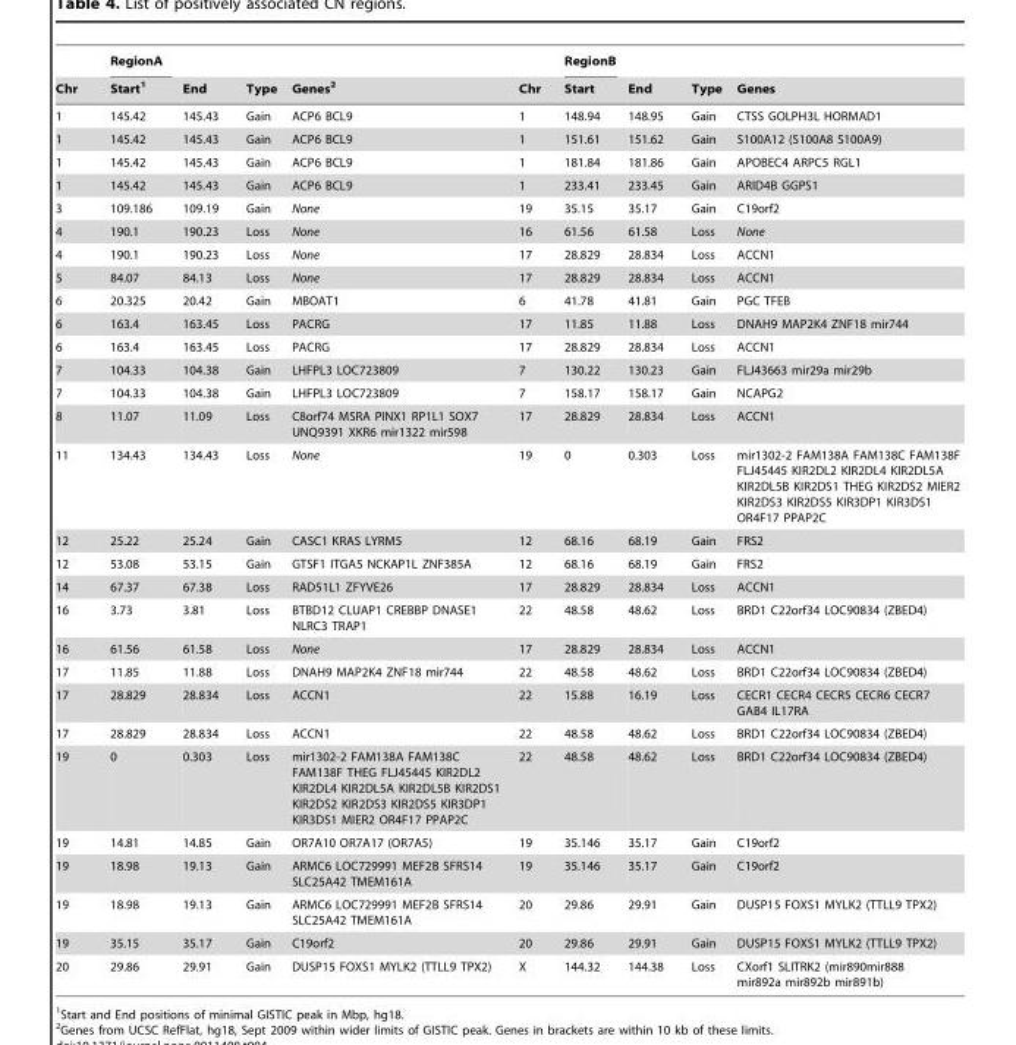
<table><thead><tr><td rowspan="2">Chr</td><td rowspan="2">RegionA Start<sup>1</sup></td><td rowspan="2">End</td><td rowspan="2">Type</td><td rowspan="2">Genes<sup>2</sup></td><td rowspan="2">Chr</td><td rowspan="2">RegionB Start</td><td rowspan="2">End</td><td rowspan="2">Type</td><td rowspan="2">Genes</td></tr><tr></tr></thead><tbody><tr><td>1</td><td>145.42</td><td>145.43</td><td>Gain</td><td>ACP6 BCL9</td><td>1</td><td>148.94</td><td>148.95</td><td>Gain</td><td>CTSS GOLPH3L HORMAD1</td></tr><tr><td>1</td><td>145.42</td><td>145.43</td><td>Gain</td><td>ACP6 BCL9</td><td>1</td><td>151.61</td><td>151.62</td><td>Gain</td><td>S100A12 (S100A8 S100A9)</td></tr><tr><td>1</td><td>145.42</td><td>145.43</td><td>Gain</td><td>ACP6 BCL9</td><td>1</td><td>181.84</td><td>181.86</td><td>Gain</td><td>APOBEC4 ARPC5 RGL1</td></tr><tr><td>1</td><td>145.42</td><td>145.43</td><td>Gain</td><td>ACP6 BCL9</td><td>1</td><td>233.41</td><td>233.45</td><td>Gain</td><td>ARID4B GGPS1</td></tr><tr><td>3</td><td>109.186</td><td>109.19</td><td>Gain</td><td>None</td><td>19</td><td>35.15</td><td>35.17</td><td>Gain</td><td>C19orf2</td></tr><tr><td>4</td><td>190.1</td><td>190.23</td><td>Loss</td><td>None</td><td>16</td><td>61.56</td><td>61.58</td><td>Loss</td><td>None</td></tr><tr><td>4</td><td>190.1</td><td>190.23</td><td>Loss</td><td>None</td><td>17</td><td>28.829</td><td>28.834</td><td>Loss</td><td>ACCN1</td></tr><tr><td>5</td><td>84.07</td><td>84.13</td><td>Loss</td><td>None</td><td>17</td><td>28.829</td><td>28.834</td><td>Loss</td><td>ACCN1</td></tr><tr><td>6</td><td>20.325</td><td>20.42</td><td>Gain</td><td>MBOAT1</td><td>6</td><td>41.78</td><td>41.81</td><td>Gain</td><td>PGC TFEB</td></tr><tr><td>6</td><td>163.4</td><td>163.45</td><td>Loss</td><td>PACRG</td><td>17</td><td>11.85</td><td>11.88</td><td>Loss</td><td>DNAH9 MAP2K4 ZNF18 mir744</td></tr><tr><td>6</td><td>163.4</td><td>163.45</td><td>Loss</td><td>PACRG</td><td>17</td><td>28.829</td><td>28.834</td><td>Loss</td><td>ACCN1</td></tr><tr><td>7</td><td>104.33</td><td>104.38</td><td>Gain</td><td>LHFPL3 LOC723809</td><td>7</td><td>130.22</td><td>130.23</td><td>Gain</td><td>FLJ43663 mir29a mir29b</td></tr><tr><td>7</td><td>104.33</td><td>104.38</td><td>Gain</td><td>LHFPL3 LOC723809</td><td>7</td><td>158.17</td><td>158.17</td><td>Gain</td><td>NCAPG2</td></tr><tr><td>8</td><td>11.07</td><td>11.09</td><td>Loss</td><td>C8orf74 MSRA PINX1 RP1L1 SOX7 UNQ9391 XKR6 mir1322 mir598</td><td>17</td><td>28.829</td><td>28.834</td><td>Loss</td><td>ACCN1</td></tr><tr><td>11</td><td>134.43</td><td>134.43</td><td>Loss</td><td>None</td><td>19</td><td>0</td><td>0.303</td><td>Loss</td><td>mir1302-2 FAM138A FAM138C FAM138F FLJ45445 KIR2DL2 KIR2DL4 KIR2DL5A KIR2DL5B KIR2DS1 THEG KIR2DS2 MIER2 KIR2DS3 KIR2DS5 KIR3DP1 KIR3DS1 OR4F17 PPAP2C</td></tr><tr><td>12</td><td>25.22</td><td>25.24</td><td>Gain</td><td>CASC1 KRAS LYRM5</td><td>12</td><td>68.16</td><td>68.19</td><td>Gain</td><td>FRS2</td></tr><tr><td>12</td><td>53.08</td><td>53.15</td><td>Gain</td><td>GTSF1 ITGA5 NCKAP1L ZNF385A</td><td>12</td><td>68.16</td><td>68.19</td><td>Gain</td><td>FRS2</td></tr><tr><td>14</td><td>67.37</td><td>67.38</td><td>Loss</td><td>RAD51L1 ZFYVE26</td><td>17</td><td>28.829</td><td>28.834</td><td>Loss</td><td>ACCN1</td></tr><tr><td>16</td><td>3.73</td><td>3.81</td><td>Loss</td><td>BTBD12 CLUAP1 CREBBP DNASE1 NLRC3 TRAP1</td><td>22</td><td>48.58</td><td>48.62</td><td>Loss</td><td>BRD1 C22orf34 LOC90834 (ZBED4)</td></tr><tr><td>16</td><td>61.56</td><td>61.58</td><td>Loss</td><td>None</td><td>17</td><td>28.829</td><td>28.834</td><td>Loss</td><td>ACCN1</td></tr><tr><td>17</td><td>11.85</td><td>11.88</td><td>Loss</td><td>DNAH9 MAP2K4 ZNF18 mir744</td><td>22</td><td>48.58</td><td>48.62</td><td>Loss</td><td>BRD1 C22orf34 LOC90834 (ZBED4)</td></tr><tr><td>17</td><td>28.829</td><td>28.834</td><td>Loss</td><td>ACCN1</td><td>22</td><td>15.88</td><td>16.19</td><td>Loss</td><td>CECR1 CECR4 CECR5 CECR6 CECR7 GAB4 IL17RA</td></tr><tr><td>17</td><td>28.829</td><td>28.834</td><td>Loss</td><td>ACCN1</td><td>22</td><td>48.58</td><td>48.62</td><td>Loss</td><td>BRD1 C22orf34 LOC90834 (ZBED4)</td></tr><tr><td>19</td><td>0</td><td>0.303</td><td>Loss</td><td>mir1302-2 FAM138A FAM138C FAM138F THEG FLJ45445 KIR2DL2 KIR2DL4 KIR2DL5A KIR2DL5B KIR2DS1 KIR2DS2 KIR2DS3 KIR2DS5 KIR3DP1 KIR3DS1 MIER2 OR4F17 PPAP2C</td><td>22</td><td>48.58</td><td>48.62</td><td>Loss</td><td>BRD1 C22orf34 LOC90834 (ZBED4)</td></tr><tr><td>19</td><td>14.81</td><td>14.85</td><td>Gain</td><td>OR7A10 OR7A17 (OR7A5)</td><td>19</td><td>35.146</td><td>35.17</td><td>Gain</td><td>C19orf2</td></tr><tr><td>19</td><td>18.98</td><td>19.13</td><td>Gain</td><td>ARMC6 LOC729991 MEF2B SFRS14 SLC25A42 TMEM161A</td><td>19</td><td>35.146</td><td>35.17</td><td>Gain</td><td>C19orf2</td></tr><tr><td>19</td><td>18.98</td><td>19.13</td><td>Gain</td><td>ARMC6 LOC729991 MEF2B SFRS14 SLC25A42 TMEM161A</td><td>20</td><td>29.86</td><td>29.91</td><td>Gain</td><td>DUSP15 FOXS1 MYLK2 (TTLL9 TPX2)</td></tr><tr><td>19</td><td>35.15</td><td>35.17</td><td>Gain</td><td>C19orf2</td><td>20</td><td>29.86</td><td>29.91</td><td>Gain</td><td>DUSP15 FOXS1 MYLK2 (TTLL9 TPX2)</td></tr><tr><td>20</td><td>29.86</td><td>29.91</td><td>Gain</td><td>DUSP15 FOXS1 MYLK2 (TTLL9 TPX2)</td><td>X</td><td>144.32</td><td>144.38</td><td>Loss</td><td>CXorf1 SLITRK2 (mir890mir888 mir892a mir892b mir891b)</td></tr></tbody></table>